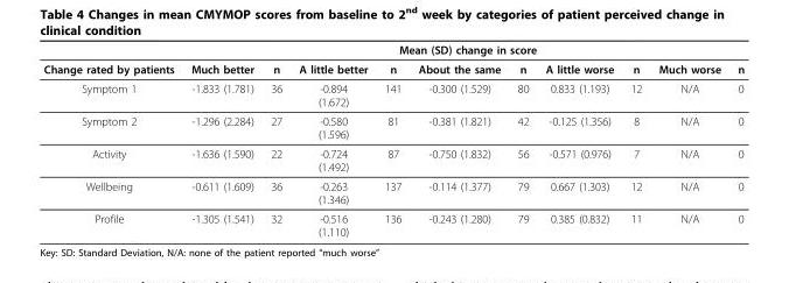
<table><thead><tr><td rowspan="2">Change rated by patients</td><td colspan="10">Mean (SD) change in score</td></tr><tr><td>Much better</td><td>n</td><td>A little better</td><td>n</td><td>About the same</td><td>n</td><td>A little worse</td><td>n</td><td>Much worse</td><td>n</td></tr></thead><tbody><tr><td>Symptom 1</td><td>-1.833 (1.781)</td><td>36</td><td>-0.894 (1.672)</td><td>141</td><td>-0.300 (1.529)</td><td>80</td><td>0.833 (1.193)</td><td>12</td><td>N/A</td><td>0</td></tr><tr><td>Symptom 2</td><td>-1.296 (2.284)</td><td>27</td><td>-0.580 (1.596)</td><td>81</td><td>-0.381 (1.821)</td><td>42</td><td>-0.125 (1.356)</td><td>8</td><td>N/A</td><td>0</td></tr><tr><td>Activity</td><td>-1.636 (1.590)</td><td>22</td><td>-0.724 (1.492)</td><td>87</td><td>-0.750 (1.832)</td><td>56</td><td>-0.571 (0.976)</td><td>7</td><td>N/A</td><td>0</td></tr><tr><td>Wellbeing</td><td>-0.611 (1.609)</td><td>36</td><td>-0.263 (1.346)</td><td>137</td><td>-0.114 (1.377)</td><td>79</td><td>0.667 (1.303)</td><td>12</td><td>N/A</td><td>0</td></tr><tr><td>Profile</td><td>-1.305 (1.541)</td><td>32</td><td>-0.516 (1.110)</td><td>136</td><td>-0.243 (1.280)</td><td>79</td><td>0.385 (0.832)</td><td>11</td><td>N/A</td><td>0</td></tr></tbody></table>